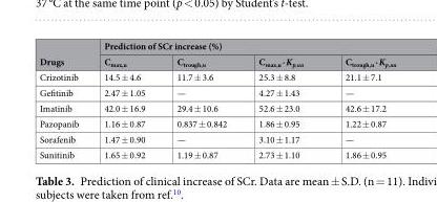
<table><thead><tr><td rowspan="2">Drugs</td><td colspan="4">Prediction of SCr increase (%)</td></tr><tr><td>C<sub>max,u</sub></td><td>C<sub>trough,u</sub></td><td>C<sub>max,u</sub> · K<sub>p,uu</sub></td><td>C<sub>trough,u</sub> · K<sub>p,uu</sub></td></tr></thead><tbody><tr><td>Crizotinib</td><td>14.5 ± 4.6</td><td>11.7 ± 3.6</td><td>25.3 ± 8.8</td><td>21.1 ± 7.1</td></tr><tr><td>Gefitinib</td><td>2.47 ± 1.05</td><td>—</td><td>4.27 ± 1.43</td><td>—</td></tr><tr><td>Imatinib</td><td>42.0 ± 16.9</td><td>29.4 ± 10.6</td><td>52.6 ± 23.0</td><td>42.6 ± 17.2</td></tr><tr><td>Pazopanib</td><td>1.16 ± 0.87</td><td>0.837 ± 0.842</td><td>1.86 ± 0.95</td><td>1.22 ± 0.87</td></tr><tr><td>Sorafenib</td><td>1.47 ± 0.90</td><td>—</td><td>3.10 ± 1.17</td><td>—</td></tr><tr><td>Sunitinib</td><td>1.65 ± 0.92</td><td>1.19 ± 0.87</td><td>2.73 ± 1.10</td><td>1.86 ± 0.95</td></tr></tbody></table>